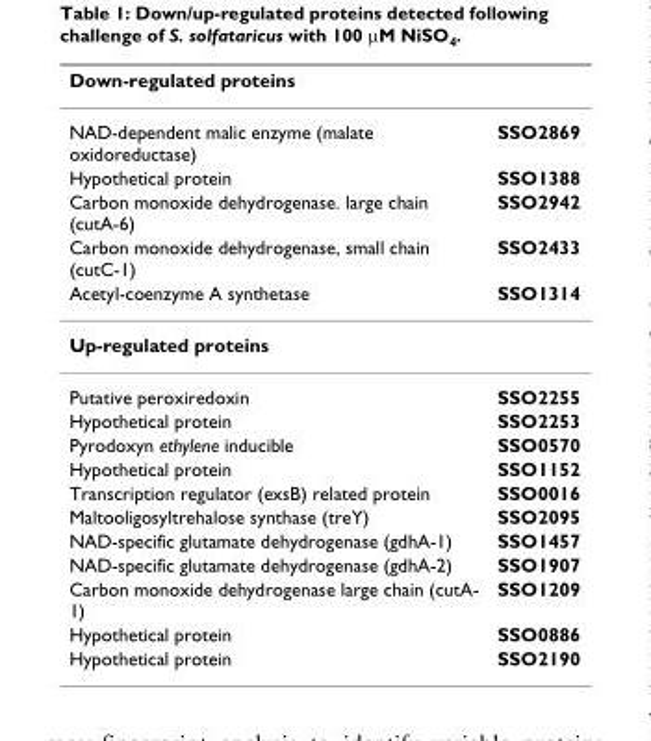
<table><thead><tr><td>Down-regulated proteins</td><td></td></tr></thead><tbody><tr><td>NAD-dependent malic enzyme (malate oxidoreductase)</td><td>SSO2869</td></tr><tr><td>Hypothetical protein</td><td>SSO1388</td></tr><tr><td>Carbon monoxide dehydrogenase. large chain (cutA-6)</td><td>SSO2942</td></tr><tr><td>Carbon monoxide dehydrogenase, small chain (cutC-1)</td><td>SSO2433</td></tr><tr><td>Acetyl-coenzyme A synthetase</td><td>SSO1314</td></tr><tr><td colspan="2">Up-regulated proteins</td></tr><tr><td>Putative peroxiredoxin</td><td>SSO2255</td></tr><tr><td>Hypothetical protein</td><td>SSO2253</td></tr><tr><td>Pyrodoxyn ethylene inducible</td><td>SSO0570</td></tr><tr><td>Hypothetical protein</td><td>SSO1152</td></tr><tr><td>Transcription regulator (exsB) related protein</td><td>SSO0016</td></tr><tr><td>Maltooligosyltrehalose synthase (treY)</td><td>SSO2095</td></tr><tr><td>NAD-specific glutamate dehydrogenase (gdhA-1)</td><td>SSO1457</td></tr><tr><td>NAD-specific glutamate dehydrogenase (gdhA-2)</td><td>SSO1907</td></tr><tr><td>Carbon monoxide dehydrogenase large chain (cutA- 1)</td><td>SSO1209</td></tr><tr><td>Hypothetical protein</td><td>SSO0886</td></tr><tr><td>Hypothetical protein</td><td>SSO2190</td></tr></tbody></table>